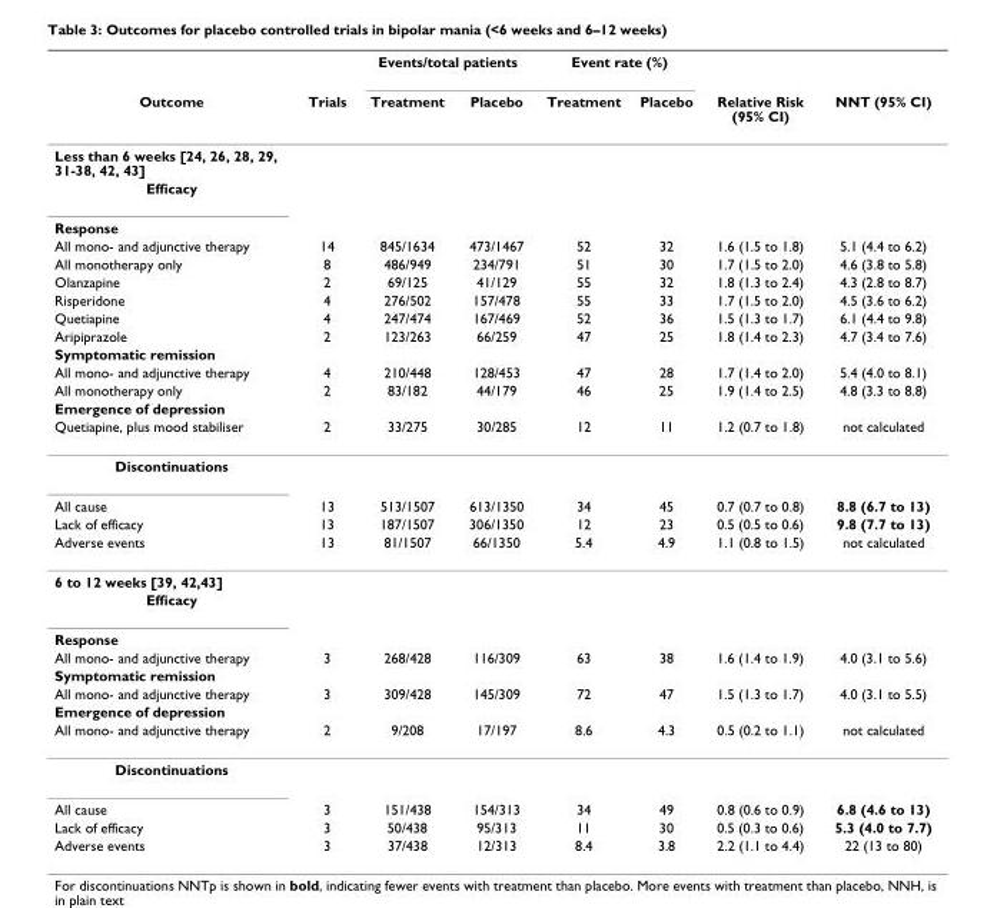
<table><thead><tr><td rowspan="2">Outcome</td><td rowspan="2">Trials</td><td colspan="2">Events/total patients</td><td colspan="2">Event rate (%)</td><td rowspan="2">Relative Risk (95% CI)</td><td rowspan="2">NNT (95% CI)</td></tr><tr><td>Treatment</td><td>Placebo</td><td>Treatment</td><td>Placebo</td></tr></thead><tbody><tr><td colspan="8">Less than 6 weeks [24, 26, 28, 29, 31-38, 42, 43]</td></tr><tr><td colspan="8">Efficacy</td></tr><tr><td colspan="8">Response</td></tr><tr><td>All mono- and adjunctive therapy</td><td>14</td><td>845/1634</td><td>473/1467</td><td>52</td><td>32</td><td>1.6 (1.5 to 1.8)</td><td>5.1 (4.4 to 6.2)</td></tr><tr><td>All monotherapy only</td><td>8</td><td>486/949</td><td>234/791</td><td>51</td><td>30</td><td>1.7 (1.5 to 2.0)</td><td>4.6 (3.8 to 5.8)</td></tr><tr><td>Olanzapine</td><td>2</td><td>69/125</td><td>41/129</td><td>55</td><td>32</td><td>1.8 (1.3 to 2.4)</td><td>4.3 (2.8 to 8.7)</td></tr><tr><td>Risperidone</td><td>4</td><td>276/502</td><td>157/478</td><td>55</td><td>33</td><td>1.7 (1.5 to 2.0)</td><td>4.5 (3.6 to 6.2)</td></tr><tr><td>Quetiapine</td><td>4</td><td>247/474</td><td>167/469</td><td>52</td><td>36</td><td>1.5 (1.3 to 1.7)</td><td>6.1 (4.4 to 9.8)</td></tr><tr><td>Aripiprazole</td><td>2</td><td>123/263</td><td>66/259</td><td>47</td><td>25</td><td>1.8 (1.4 to 2.3)</td><td>4.7 (3.4 to 7.6)</td></tr><tr><td colspan="8">Symptomatic remission</td></tr><tr><td>All mono- and adjunctive therapy</td><td>4</td><td>210/448</td><td>128/453</td><td>47</td><td>28</td><td>1.7 (1.4 to 2.0)</td><td>5.4 (4.0 to 8.1)</td></tr><tr><td>All monotherapy only</td><td>2</td><td>83/182</td><td>44/179</td><td>46</td><td>25</td><td>1.9 (1.4 to 2.5)</td><td>4.8 (3.3 to 8.8)</td></tr><tr><td colspan="8">Emergence of depression</td></tr><tr><td>Quetiapine, plus mood stabiliser</td><td>2</td><td>33/275</td><td>30/285</td><td>12</td><td>11</td><td>1.2 (0.7 to 1.8)</td><td>not calculated</td></tr><tr><td colspan="8">Discontinuations</td></tr><tr><td>All cause</td><td>13</td><td>513/1507</td><td>613/1350</td><td>34</td><td>45</td><td>0.7 (0.7 to 0.8)</td><td>8.8 (6.7 to 13)</td></tr><tr><td>Lack of efficacy</td><td>13</td><td>187/1507</td><td>306/1350</td><td>12</td><td>23</td><td>0.5 (0.5 to 0.6)</td><td>9.8 (7.7 to 13)</td></tr><tr><td>Adverse events</td><td>13</td><td>81/1507</td><td>66/1350</td><td>5.4</td><td>4.9</td><td>1.1 (0.8 to 1.5)</td><td>not calculated</td></tr><tr><td colspan="8">6 to 12 weeks [39, 42,43]</td></tr><tr><td colspan="8">Efficacy</td></tr><tr><td colspan="8">Response</td></tr><tr><td>All mono- and adjunctive therapy</td><td>3</td><td>268/428</td><td>116/309</td><td>63</td><td>38</td><td>1.6 (1.4 to 1.9)</td><td>4.0 (3.1 to 5.6)</td></tr><tr><td colspan="8">Symptomatic remission</td></tr><tr><td>All mono- and adjunctive therapy</td><td>3</td><td>309/428</td><td>145/309</td><td>72</td><td>47</td><td>1.5 (1.3 to 1.7)</td><td>4.0 (3.1 to 5.5)</td></tr><tr><td colspan="8">Emergence of depression</td></tr><tr><td>All mono- and adjunctive therapy</td><td>2</td><td>9/208</td><td>17/197</td><td>8.6</td><td>4.3</td><td>0.5 (0.2 to 1.1)</td><td>not calculated</td></tr><tr><td colspan="8">Discontinuations</td></tr><tr><td>All cause</td><td>3</td><td>151/438</td><td>154/313</td><td>34</td><td>49</td><td>0.8 (0.6 to 0.9)</td><td>6.8 (4.6 to 13)</td></tr><tr><td>Lack of efficacy</td><td>3</td><td>50/438</td><td>95/313</td><td>11</td><td>30</td><td>0.5 (0.3 to 0.6)</td><td>5.3 (4.0 to 7.7)</td></tr><tr><td>Adverse events</td><td>3</td><td>37/438</td><td>12/313</td><td>8.4</td><td>3.8</td><td>2.2 (1.1 to 4.4)</td><td>22 (13 to 80)</td></tr></tbody></table>